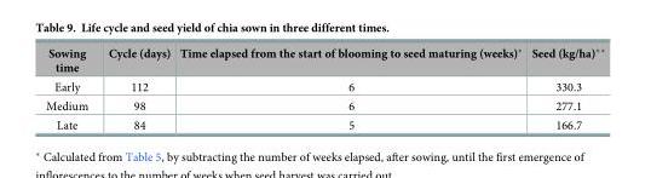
<table><thead><tr><td>Sowing time</td><td>Cycle (days)</td><td>Time elapsed from the start of blooming to seed maturing (weeks)*</td><td>Seed (kg/ha)**</td></tr></thead><tbody><tr><td>Early</td><td>112</td><td>6</td><td>330.3</td></tr><tr><td>Medium</td><td>98</td><td>6</td><td>277.1</td></tr><tr><td>Late</td><td>84</td><td>5</td><td>166.7</td></tr></tbody></table>